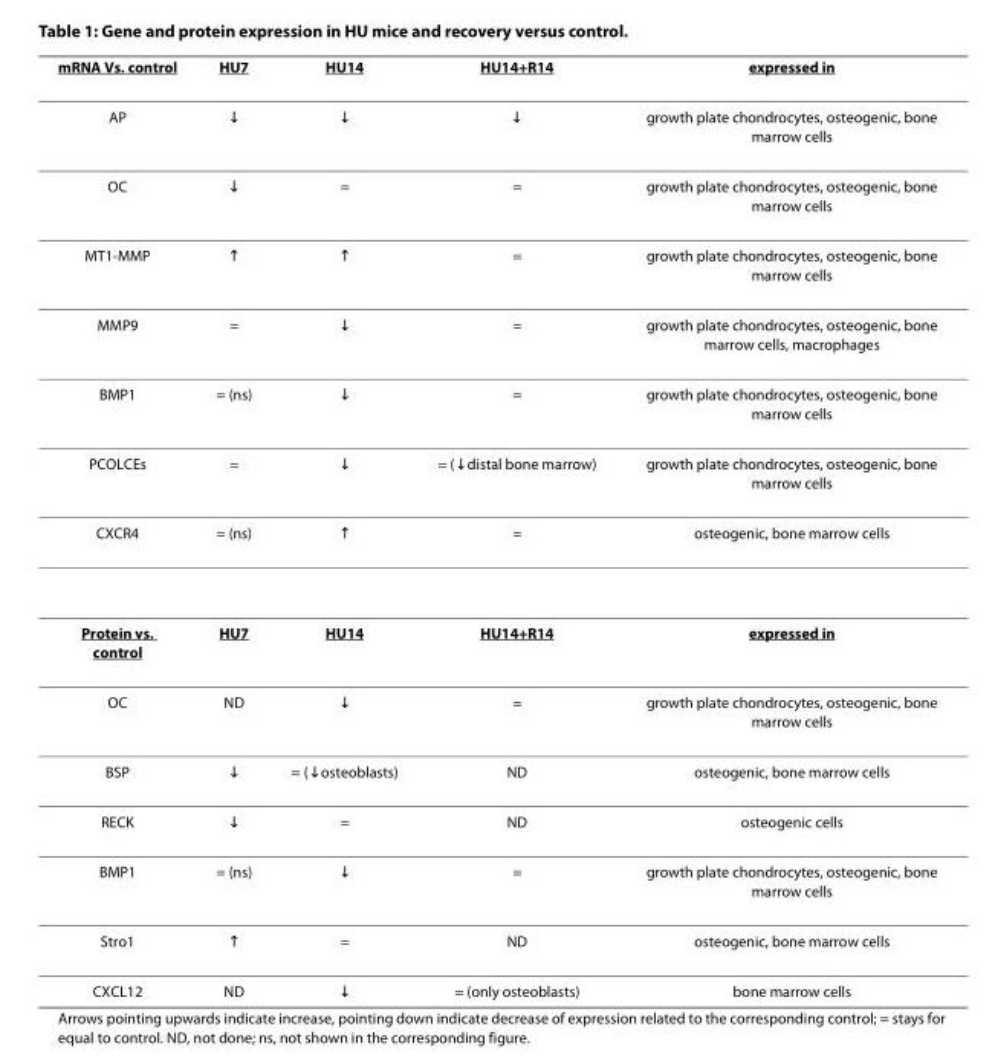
<table><thead><tr><td>mRNA Vs. control</td><td>HU7</td><td>HU14</td><td>HU14+R14</td><td>expressed in</td></tr></thead><tbody><tr><td>AP</td><td>|</td><td>|</td><td>|</td><td>growth plate chondrocytes, osteogenic, bone marrow cells</td></tr><tr><td>OC</td><td>|</td><td>=</td><td>=</td><td>growth plate chondrocytes, osteogenic, bone marrow cells</td></tr><tr><td>MT1-MMP</td><td>↑</td><td>↑</td><td>=</td><td>growth plate chondrocytes, osteogenic, bone marrow cells</td></tr><tr><td>MMP9</td><td>=</td><td>|</td><td>=</td><td>growth plate chondrocytes, osteogenic, bone marrow cells, macrophages</td></tr><tr><td>BMP1</td><td>= (ns)</td><td>|</td><td>=</td><td>growth plate chondrocytes, osteogenic, bone marrow cells</td></tr><tr><td>PCOLCEs</td><td>=</td><td>|</td><td>= (|distal bone marrow)</td><td>growth plate chondrocytes, osteogenic, bone marrow cells</td></tr><tr><td>CXCR4</td><td>= (ns)</td><td>↑</td><td>=</td><td>osteogenic, bone marrow cells</td></tr><tr><td>Protein vs. control</td><td>HU7</td><td>HU14</td><td>HU14+R14</td><td>expressed in</td></tr><tr><td>OC</td><td>ND</td><td>|</td><td>=</td><td>growth plate chondrocytes, osteogenic, bone marrow cells</td></tr><tr><td>BSP</td><td>|</td><td>= (|osteoblasts)</td><td>ND</td><td>osteogenic, bone marrow cells</td></tr><tr><td>RECK</td><td>|</td><td>=</td><td>ND</td><td>osteogenic cells</td></tr><tr><td>BMP1</td><td>= (ns)</td><td>|</td><td>=</td><td>growth plate chondrocytes, osteogenic, bone marrow cells</td></tr><tr><td>Stro1</td><td>↑</td><td>=</td><td>ND</td><td>osteogenic, bone marrow cells</td></tr><tr><td>CXCL12</td><td>ND</td><td>|</td><td>= (only osteoblasts)</td><td>bone marrow cells</td></tr></tbody></table>